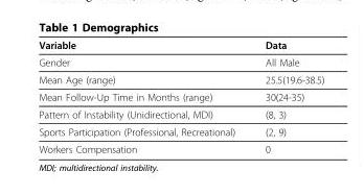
<table><thead><tr><td>Variable</td><td>Data</td></tr></thead><tbody><tr><td>Gender</td><td>All Male</td></tr><tr><td>Mean Age (range)</td><td>25.5(19.6-38.5)</td></tr><tr><td>Mean Follow-Up Time in Months (range)</td><td>30(24-35)</td></tr><tr><td>Pattern of Instability (Unidirectional, MDI)</td><td>(8, 3)</td></tr><tr><td>Sports Participation (Professional, Recreational)</td><td>(2, 9)</td></tr><tr><td>Workers Compensation</td><td>0</td></tr></tbody></table>